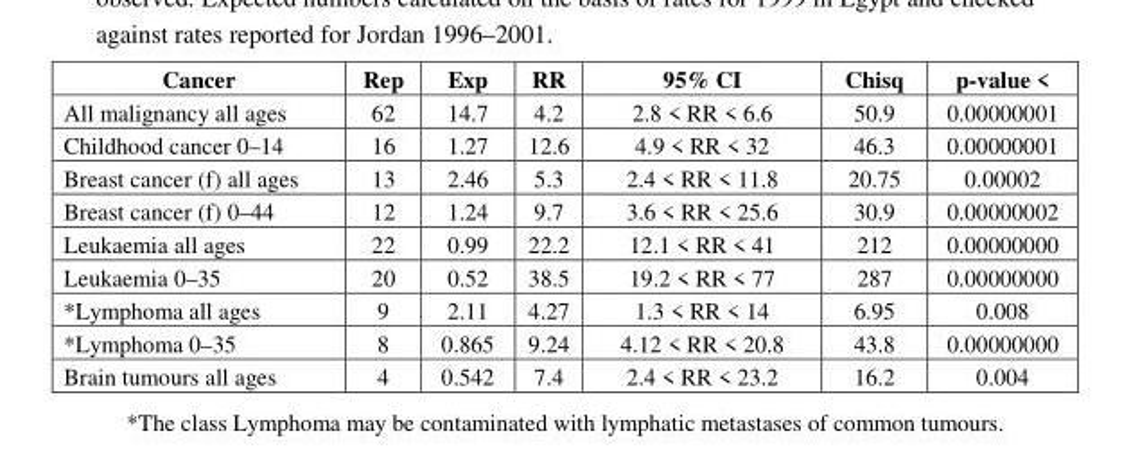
<table><thead><tr><td>Cancer</td><td>Rep</td><td>Exp</td><td>RR</td><td>95% CI</td><td>Chisq</td><td>p-value &lt;</td></tr></thead><tbody><tr><td>All malignancy all ages</td><td>62</td><td>14.7</td><td>4.2</td><td>2.8 &lt; RR &lt; 6.6</td><td>50.9</td><td>0.00000001</td></tr><tr><td>Childhood cancer 0–14</td><td>16</td><td>1.27</td><td>12.6</td><td>4.9 &lt; RR &lt; 32</td><td>46.3</td><td>0.00000001</td></tr><tr><td>Breast cancer (f) all ages</td><td>13</td><td>2.46</td><td>5.3</td><td>2.4 &lt; RR &lt; 11.8</td><td>20.75</td><td>0.00002</td></tr><tr><td>Breast cancer (f) 0–44</td><td>12</td><td>1.24</td><td>9.7</td><td>3.6 &lt; RR &lt; 25.6</td><td>30.9</td><td>0.00000002</td></tr><tr><td>Leukaemia all ages</td><td>22</td><td>0.99</td><td>22.2</td><td>12.1 &lt; RR &lt; 41</td><td>212</td><td>0.00000000</td></tr><tr><td>Leukaemia 0–35</td><td>20</td><td>0.52</td><td>38.5</td><td>19.2 &lt; RR &lt; 77</td><td>287</td><td>0.00000000</td></tr><tr><td>*Lymphoma all ages</td><td>9</td><td>2.11</td><td>4.27</td><td>1.3 &lt; RR &lt; 14</td><td>6.95</td><td>0.008</td></tr><tr><td>*Lymphoma 0–35</td><td>8</td><td>0.865</td><td>9.24</td><td>4.12 &lt; RR &lt; 20.8</td><td>43.8</td><td>0.00000000</td></tr><tr><td>Brain tumours all ages</td><td>4</td><td>0.542</td><td>7.4</td><td>2.4 &lt; RR &lt; 23.2</td><td>16.2</td><td>0.004</td></tr></tbody></table>